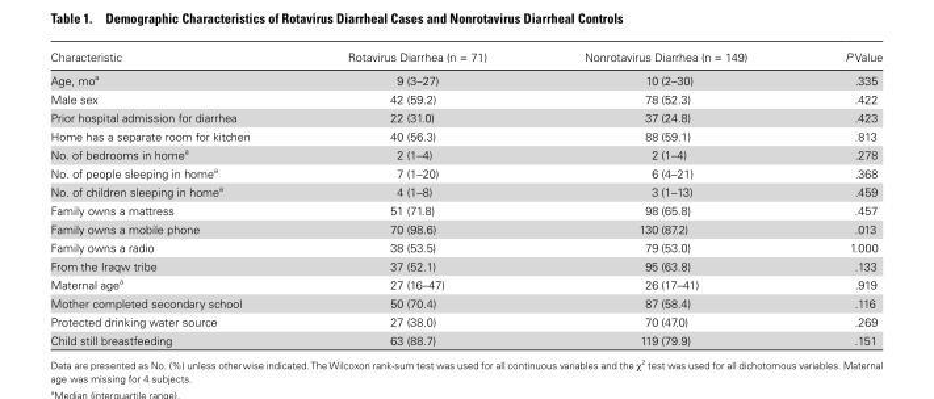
<table><thead><tr><td>Characteristic</td><td>Rotavirus Diarrhea (n = 71)</td><td>Nonrotavirus Diarrhea (n = 149)</td><td>P Value</td></tr></thead><tbody><tr><td>Age, mo<sup>a</sup></td><td>9 (3–27)</td><td>10 (2–30)</td><td>.335</td></tr><tr><td>Male sex</td><td>42 (59.2)</td><td>78 (52.3)</td><td>.422</td></tr><tr><td>Prior hospital admission for diarrhea</td><td>22 (31.0)</td><td>37 (24.8)</td><td>.423</td></tr><tr><td>Home has a separate room for kitchen</td><td>40 (56.3)</td><td>88 (59.1)</td><td>.813</td></tr><tr><td>No. of bedrooms in home<sup>a</sup></td><td>2 (1–4)</td><td>2 (1–4)</td><td>.278</td></tr><tr><td>No. of people sleeping in home<sup>a</sup></td><td>7 (1–20)</td><td>6 (4–21)</td><td>.368</td></tr><tr><td>No. of children sleeping in home<sup>a</sup></td><td>4 (1–8)</td><td>3 (1–13)</td><td>.459</td></tr><tr><td>Family owns a mattress</td><td>51 (71.8)</td><td>98 (65.8)</td><td>.457</td></tr><tr><td>Family owns a mobile phone</td><td>70 (98.6)</td><td>130 (87.2)</td><td>.013</td></tr><tr><td>Family owns a radio</td><td>38 (53.5)</td><td>79 (53.0)</td><td>1.000</td></tr><tr><td>From the Iraqw tribe</td><td>37 (52.1)</td><td>95 (63.8)</td><td>.133</td></tr><tr><td>Maternal age<sup>a</sup></td><td>27 (16–47)</td><td>26 (17–41)</td><td>.919</td></tr><tr><td>Mother completed secondary school</td><td>50 (70.4)</td><td>87 (58.4)</td><td>.116</td></tr><tr><td>Protected drinking water source</td><td>27 (38.0)</td><td>70 (47.0)</td><td>.269</td></tr><tr><td>Child still breastfeeding</td><td>63 (88.7)</td><td>119 (79.9)</td><td>.151</td></tr></tbody></table>